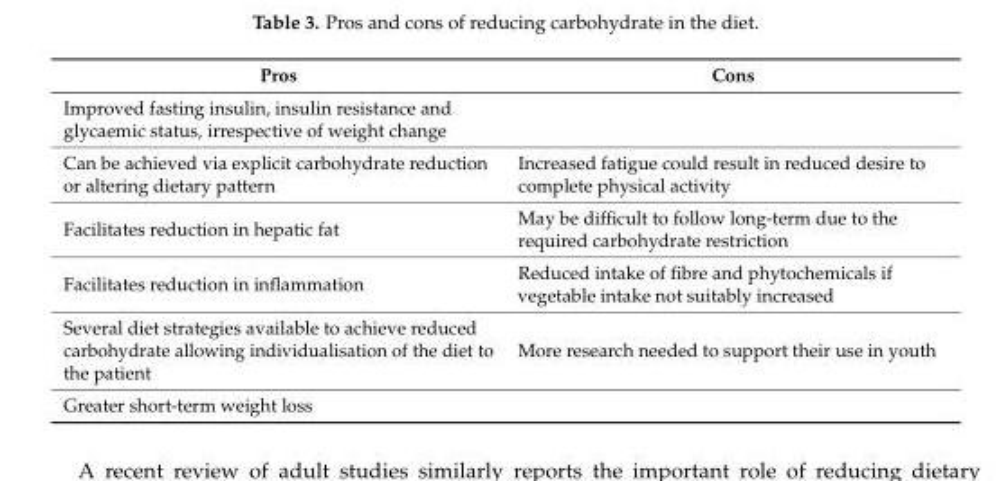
<table><thead><tr><td>Pros</td><td>Cons</td></tr></thead><tbody><tr><td colspan="2">Improved fasting insulin, insulin resistance and glycaemic status, irrespective of weight change</td></tr><tr><td>Can be achieved via explicit carbohydrate reduction or altering dietary pattern</td><td>Increased fatigue could result in reduced desire to complete physical activity</td></tr><tr><td>Facilitates reduction in hepatic fat</td><td>May be difficult to follow long-term due to the required carbohydrate restriction</td></tr><tr><td>Facilitates reduction in inflammation</td><td>Reduced intake of fibre and phytochemicals if vegetable intake not suitably increased</td></tr><tr><td>Several diet strategies available to achieve reduced carbohydrate allowing individualisation of the diet to the patient</td><td>More research needed to support their use in youth</td></tr><tr><td>Greater short-term weight loss</td><td></td></tr></tbody></table>